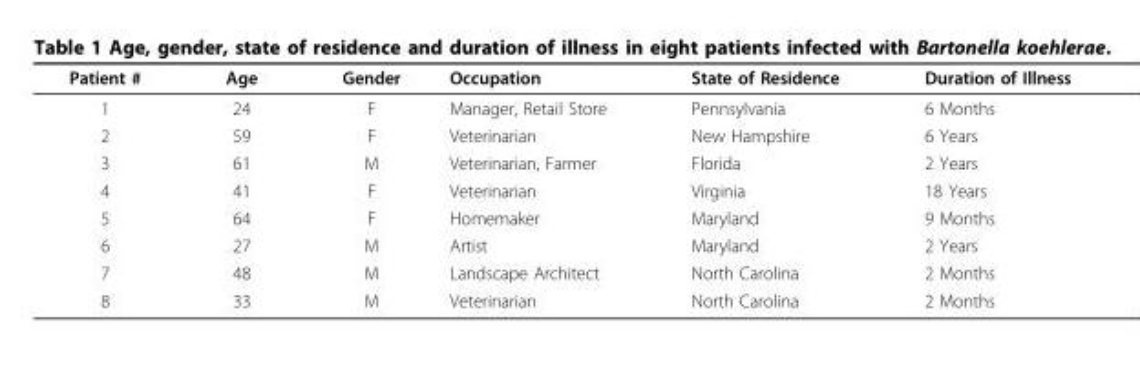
<table><thead><tr><td>Patient #</td><td>Age</td><td>Gender</td><td>Occupation</td><td>State of Residence</td><td>Duration of Illness</td></tr></thead><tbody><tr><td>1</td><td>24</td><td>F</td><td>Manager, Retail Store</td><td>Pennsylvania</td><td>6 Months</td></tr><tr><td>2</td><td>59</td><td>F</td><td>Veterinarian</td><td>New Hampshire</td><td>6 Years</td></tr><tr><td>3</td><td>61</td><td>M</td><td>Veterinarian, Farmer</td><td>Florida</td><td>2 Years</td></tr><tr><td>4</td><td>41</td><td>F</td><td>Veterinarian</td><td>Virginia</td><td>18 Years</td></tr><tr><td>5</td><td>64</td><td>F</td><td>Homemaker</td><td>Maryland</td><td>9 Months</td></tr><tr><td>6</td><td>27</td><td>M</td><td>Artist</td><td>Maryland</td><td>2 Years</td></tr><tr><td>7</td><td>48</td><td>M</td><td>Landscape Architect</td><td>North Carolina</td><td>2 Months</td></tr><tr><td>8</td><td>33</td><td>M</td><td>Veterinarian</td><td>North Carolina</td><td>2 Months</td></tr></tbody></table>